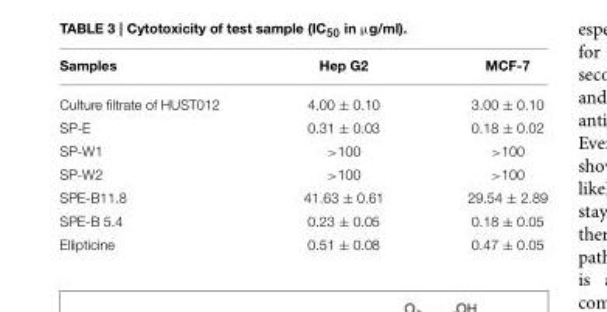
<table><thead><tr><td>Samples</td><td>Hep G2</td><td>MCF-7</td></tr></thead><tbody><tr><td>Culture filtrate of HUST012</td><td>4.00 ± 0.10</td><td>3.00 ± 0.10</td></tr><tr><td>SP-E</td><td>0.31 ± 0.03</td><td>0.18 ± 0.02</td></tr><tr><td>SP-W1</td><td>&gt;100</td><td>&gt;100</td></tr><tr><td>SP-W2</td><td>&gt;100</td><td>&gt;100</td></tr><tr><td>SPE-B11.8</td><td>41.63 ± 0.61</td><td>29.54 ± 2.89</td></tr><tr><td>SPE-B 5.4</td><td>0.23 ± 0.05</td><td>0.18 ± 0.05</td></tr><tr><td>Ellipticine</td><td>0.51 ± 0.08</td><td>0.47 ± 0.05</td></tr></tbody></table>